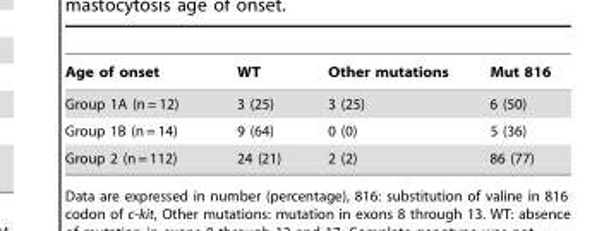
<table><thead><tr><td>Age of onset</td><td>WT</td><td>Other mutations</td><td>Mut 816</td></tr></thead><tbody><tr><td>Group 1A (n = 12)</td><td>3 (25)</td><td>3 (25)</td><td>6 (50)</td></tr><tr><td>Group 1B (n = 14)</td><td>9 (64)</td><td>0 (0)</td><td>5 (36)</td></tr><tr><td>Group 2 (n = 112)</td><td>24 (21)</td><td>2 (2)</td><td>86 (77)</td></tr></tbody></table>